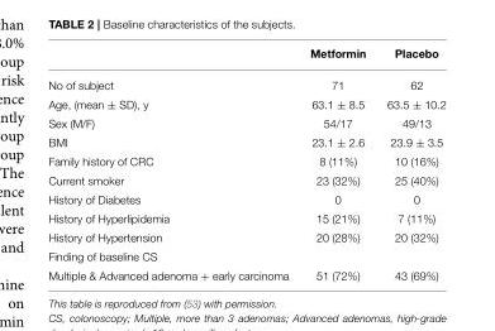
<table><thead><tr><td></td><td>Metformin</td><td>Placebo</td></tr></thead><tbody><tr><td>No of subject</td><td>71</td><td>62</td></tr><tr><td>Age, (mean ± SD), y</td><td>63.1 ± 8.5</td><td>63.5 ± 10.2</td></tr><tr><td>Sex (M/F)</td><td>54/17</td><td>49/13</td></tr><tr><td>BMI</td><td>23.1 ± 2.6</td><td>23.9 ± 3.5</td></tr><tr><td>Family history of CRC</td><td>8 (11%)</td><td>10 (16%)</td></tr><tr><td>Current smoker</td><td>23 (32%)</td><td>25 (40%)</td></tr><tr><td>History of Diabetes</td><td>0</td><td>0</td></tr><tr><td>History of Hyperlipidemia</td><td>15 (21%)</td><td>7 (11%)</td></tr><tr><td>History of Hypertension</td><td>20 (28%)</td><td>20 (32%)</td></tr><tr><td colspan="3">Finding of baseline CS</td></tr><tr><td>Multiple &amp; Advanced adenoma + early carcinoma</td><td>51 (72%)</td><td>43 (69%)</td></tr></tbody></table>